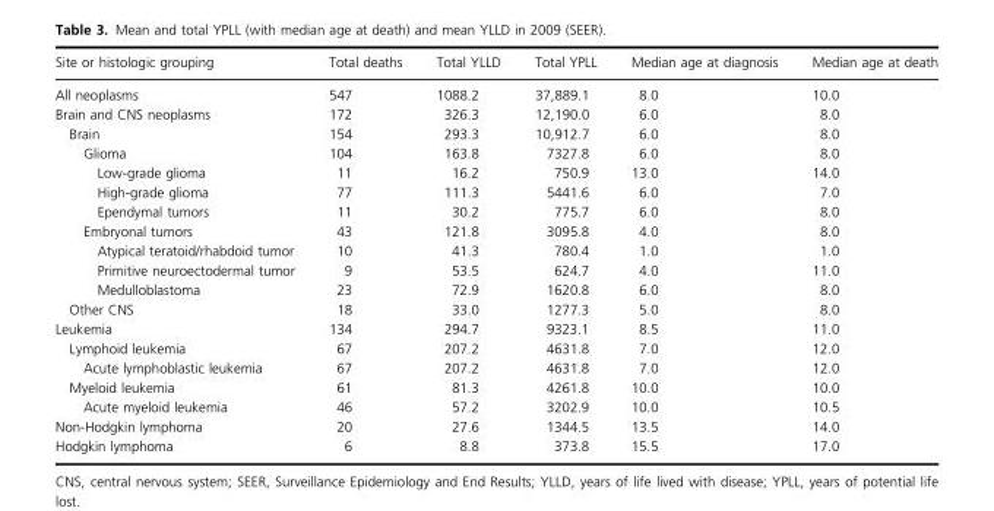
<table><thead><tr><td>Site or histologic grouping</td><td>Total deaths</td><td>Total YLLD</td><td>Total YPLL</td><td>Median age at diagnosis</td><td>Median age at death</td></tr></thead><tbody><tr><td>All neoplasms</td><td>547</td><td>1088.2</td><td>37,889.1</td><td>8.0</td><td>10.0</td></tr><tr><td>Brain and CNS neoplasms</td><td>172</td><td>326.3</td><td>12,190.0</td><td>6.0</td><td>8.0</td></tr><tr><td>Brain</td><td>154</td><td>293.3</td><td>10,912.7</td><td>6.0</td><td>8.0</td></tr><tr><td>Glioma</td><td>104</td><td>163.8</td><td>7327.8</td><td>6.0</td><td>8.0</td></tr><tr><td>Low-grade glioma</td><td>11</td><td>16.2</td><td>750.9</td><td>13.0</td><td>14.0</td></tr><tr><td>High-grade glioma</td><td>77</td><td>111.3</td><td>5441.6</td><td>6.0</td><td>7.0</td></tr><tr><td>Ependymal tumors</td><td>11</td><td>30.2</td><td>775.7</td><td>6.0</td><td>8.0</td></tr><tr><td>Embryonal tumors</td><td>43</td><td>121.8</td><td>3095.8</td><td>4.0</td><td>8.0</td></tr><tr><td>Atypical teratoid/rhabdoid tumor</td><td>10</td><td>41.3</td><td>780.4</td><td>1.0</td><td>1.0</td></tr><tr><td>Primitive neuroectodermal tumor</td><td>9</td><td>53.5</td><td>624.7</td><td>4.0</td><td>11.0</td></tr><tr><td>Medulloblastoma</td><td>23</td><td>72.9</td><td>1620.8</td><td>6.0</td><td>8.0</td></tr><tr><td>Other CNS</td><td>18</td><td>33.0</td><td>1277.3</td><td>5.0</td><td>8.0</td></tr><tr><td>Leukemia</td><td>134</td><td>294.7</td><td>9323.1</td><td>8.5</td><td>11.0</td></tr><tr><td>Lymphoid leukemia</td><td>67</td><td>207.2</td><td>4631.8</td><td>7.0</td><td>12.0</td></tr><tr><td>Acute lymphoblastic leukemia</td><td>67</td><td>207.2</td><td>4631.8</td><td>7.0</td><td>12.0</td></tr><tr><td>Myeloid leukemia</td><td>61</td><td>81.3</td><td>4261.8</td><td>10.0</td><td>10.0</td></tr><tr><td>Acute myeloid leukemia</td><td>46</td><td>57.2</td><td>3202.9</td><td>10.0</td><td>10.5</td></tr><tr><td>Non-Hodgkin lymphoma</td><td>20</td><td>27.6</td><td>1344.5</td><td>13.5</td><td>14.0</td></tr><tr><td>Hodgkin lymphoma</td><td>6</td><td>8.8</td><td>373.8</td><td>15.5</td><td>17.0</td></tr></tbody></table>